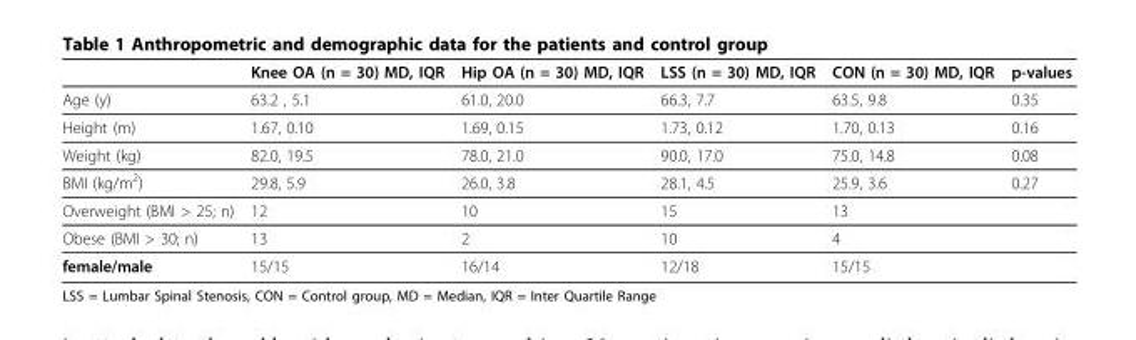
<table><thead><tr><td></td><td>Knee OA (n = 30) MD, IQR</td><td>Hip OA (n = 30) MD, IQR</td><td>LSS (n = 30) MD, IQR</td><td>CON (n = 30) MD, IQR</td><td>p-values</td></tr></thead><tbody><tr><td>Age (y)</td><td>63.2 , 5.1</td><td>61.0, 20.0</td><td>66.3, 7.7</td><td>63.5, 9.8</td><td>0.35</td></tr><tr><td>Height (m)</td><td>1.67, 0.10</td><td>1.69, 0.15</td><td>1.73, 0.12</td><td>1.70, 0.13</td><td>0.16</td></tr><tr><td>Weight (kg)</td><td>82.0, 19.5</td><td>78.0, 21.0</td><td>90.0, 17.0</td><td>75.0, 14.8</td><td>0.08</td></tr><tr><td>BMI (kg/m<sup>2</sup>)</td><td>29.8, 5.9</td><td>26.0, 3.8</td><td>28.1, 4.5</td><td>25.9, 3.6</td><td>0.27</td></tr><tr><td>Overweight (BMI &gt; 25; n)</td><td>12</td><td>10</td><td>15</td><td>13</td><td></td></tr><tr><td>Obese (BMI &gt; 30; n)</td><td>13</td><td>2</td><td>10</td><td>4</td><td></td></tr><tr><td>female/male</td><td>15/15</td><td>16/14</td><td>12/18</td><td>15/15</td><td></td></tr></tbody></table>